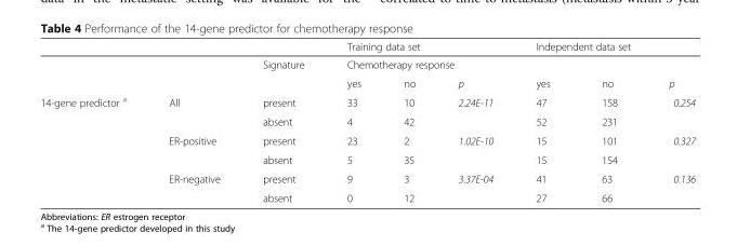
<table><thead><tr><td></td><td></td><td rowspan="3">Signature</td><td colspan="3">Training data set</td><td colspan="3">Independent data set</td></tr><tr><td rowspan="2" colspan="2"></td><td colspan="6">Chemotherapy response</td></tr><tr><td>yes</td><td>no</td><td>p</td><td>yes</td><td>no</td><td>p</td></tr></thead><tbody><tr><td rowspan="6">14-gene predictor <sup>a</sup></td><td rowspan="2">All</td><td>present</td><td>33</td><td>10</td><td rowspan="2">2.24E-11</td><td>47</td><td>158</td><td rowspan="2">0.254</td></tr><tr><td>absent</td><td>4</td><td>42</td><td>52</td><td>231</td></tr><tr><td rowspan="2">ER-positive</td><td>present</td><td>23</td><td>2</td><td rowspan="2">1.02E-10</td><td>15</td><td>101</td><td rowspan="2">0.327</td></tr><tr><td>absent</td><td>5</td><td>35</td><td>15</td><td>154</td></tr><tr><td rowspan="2">ER-negative</td><td>present</td><td>9</td><td>3</td><td rowspan="2">3.37E-04</td><td>41</td><td>63</td><td rowspan="2">0.136</td></tr><tr><td>absent</td><td>0</td><td>12</td><td>27</td><td>66</td></tr></tbody></table>